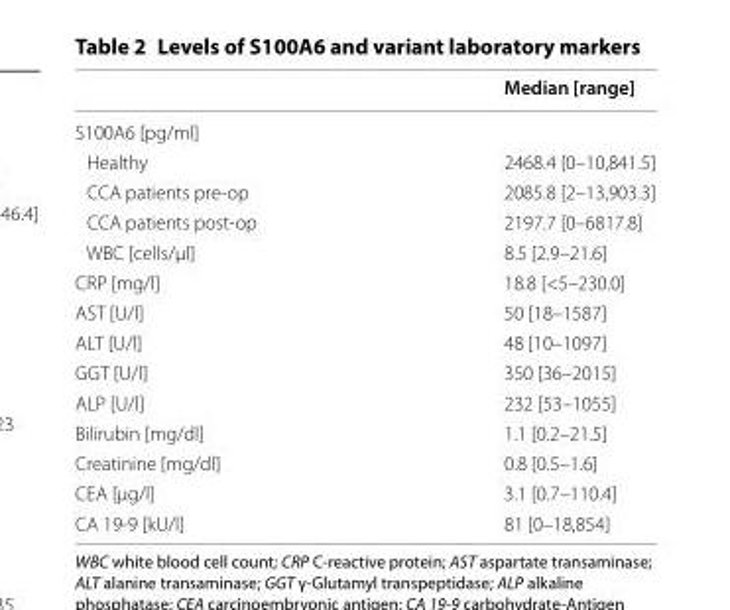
<table><thead><tr><td></td><td>Median [range]</td></tr></thead><tbody><tr><td colspan="2">S100A6 [pg/ml]</td></tr><tr><td>Healthy</td><td>2468.4 [0–10,841.5]</td></tr><tr><td>CCA patients pre-op</td><td>2085.8 [2–13,903.3]</td></tr><tr><td>CCA patients post-op</td><td>2197.7 [0–6817.8]</td></tr><tr><td>WBC [cells/µl]</td><td>8.5 [2.9–21.6]</td></tr><tr><td>CRP [mg/l]</td><td>18.8 [&lt;5–230.0]</td></tr><tr><td>AST [U/l]</td><td>50 [18–1587]</td></tr><tr><td>ALT [U/l]</td><td>48 [10–1097]</td></tr><tr><td>GGT [U/l]</td><td>350 [36–2015]</td></tr><tr><td>ALP [U/l]</td><td>232 [53–1055]</td></tr><tr><td>Bilirubin [mg/dl]</td><td>1.1 [0.2–21.5]</td></tr><tr><td>Creatinine [mg/dl]</td><td>0.8 [0.5–1.6]</td></tr><tr><td>CEA [µg/l]</td><td>3.1 [0.7–110.4]</td></tr><tr><td>CA 19-9 [kU/l]</td><td>81 [0–18,854]</td></tr></tbody></table>